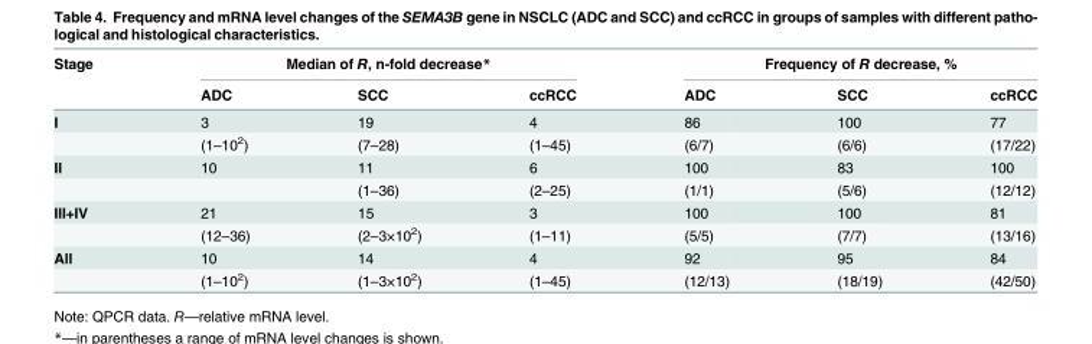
<table><thead><tr><td rowspan="2">Stage</td><td colspan="3">Median of R, n-fold decrease*</td><td colspan="3">Frequency of R decrease, %</td></tr><tr><td>ADC</td><td>SCC</td><td>ccRCC</td><td>ADC</td><td>SCC</td><td>ccRCC</td></tr></thead><tbody><tr><td rowspan="2">I</td><td>3</td><td>19</td><td>4</td><td>86</td><td>100</td><td>77</td></tr><tr><td>(1–10<sup>2</sup>)</td><td>(7–28)</td><td>(1–45)</td><td>(6/7)</td><td>(6/6)</td><td>(17/22)</td></tr><tr><td rowspan="2">II</td><td>10</td><td>11</td><td>6</td><td>100</td><td>83</td><td>100</td></tr><tr><td></td><td>(1–36)</td><td>(2–25)</td><td>(1/1)</td><td>(5/6)</td><td>(12/12)</td></tr><tr><td rowspan="2">III+IV</td><td>21</td><td>15</td><td>3</td><td>100</td><td>100</td><td>81</td></tr><tr><td>(12–36)</td><td>(2–3×10<sup>2</sup>)</td><td>(1–11)</td><td>(5/5)</td><td>(7/7)</td><td>(13/16)</td></tr><tr><td rowspan="2">All</td><td>10</td><td>14</td><td>4</td><td>92</td><td>95</td><td>84</td></tr><tr><td>(1–10<sup>2</sup>)</td><td>(1–3×10<sup>2</sup>)</td><td>(1–45)</td><td>(12/13)</td><td>(18/19)</td><td>(42/50)</td></tr></tbody></table>